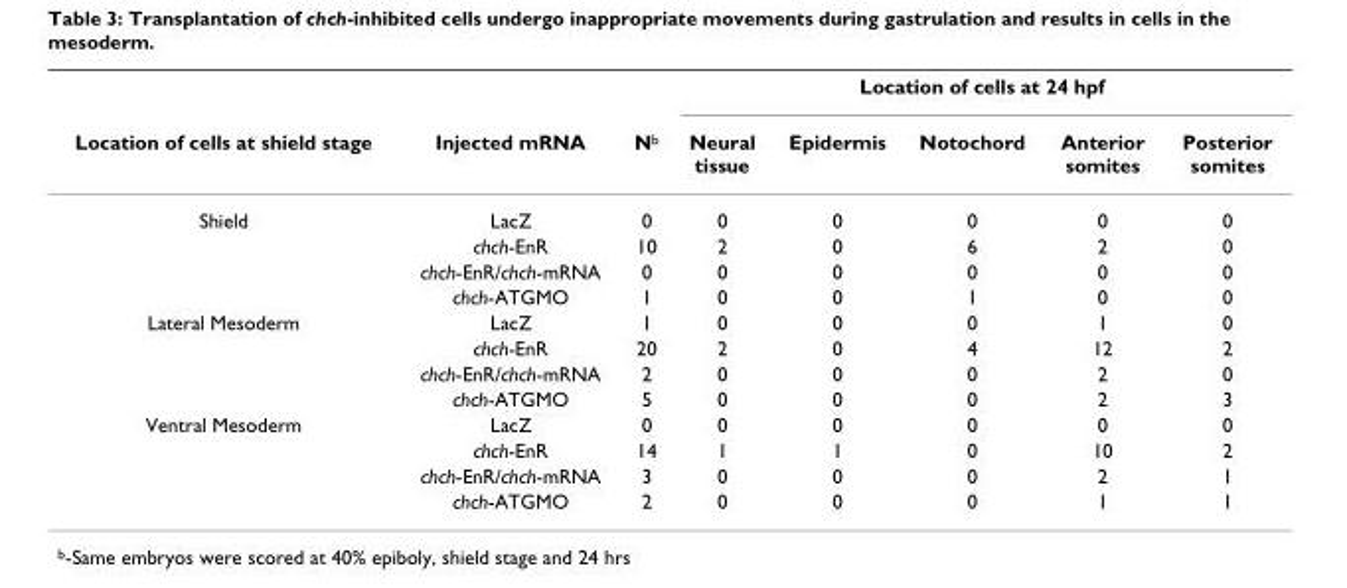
<table><thead><tr><td rowspan="2">Location of cells at shield stage</td><td rowspan="2">Injected mRNA</td><td rowspan="2">N<sup>b</sup></td><td colspan="5">Location of cells at 24 hpf</td></tr><tr><td>Neural tissue</td><td>Epidermis</td><td>Notochord</td><td>Anterior somites</td><td>Posterior somites</td></tr></thead><tbody><tr><td rowspan="4">Shield</td><td>LacZ</td><td>0</td><td>0</td><td>0</td><td>0</td><td>0</td><td>0</td></tr><tr><td>chch-EnR</td><td>10</td><td>2</td><td>0</td><td>6</td><td>2</td><td>0</td></tr><tr><td>chch-EnR/chch-mRNA</td><td>0</td><td>0</td><td>0</td><td>0</td><td>0</td><td>0</td></tr><tr><td>chch-ATGMO</td><td>1</td><td>0</td><td>0</td><td>1</td><td>0</td><td>0</td></tr><tr><td rowspan="4">Lateral Mesoderm</td><td>LacZ</td><td>1</td><td>0</td><td>0</td><td>0</td><td>1</td><td>0</td></tr><tr><td>chch-EnR</td><td>20</td><td>2</td><td>0</td><td>4</td><td>12</td><td>2</td></tr><tr><td>chch-EnR/chch-mRNA</td><td>2</td><td>0</td><td>0</td><td>0</td><td>2</td><td>0</td></tr><tr><td>chch-ATGMO</td><td>5</td><td>0</td><td>0</td><td>0</td><td>2</td><td>3</td></tr><tr><td rowspan="4">Ventral Mesoderm</td><td>LacZ</td><td>0</td><td>0</td><td>0</td><td>0</td><td>0</td><td>0</td></tr><tr><td>chch-EnR</td><td>14</td><td>1</td><td>1</td><td>0</td><td>10</td><td>2</td></tr><tr><td>chch-EnR/chch-mRNA</td><td>3</td><td>0</td><td>0</td><td>0</td><td>2</td><td>1</td></tr><tr><td>chch-ATGMO</td><td>2</td><td>0</td><td>0</td><td>0</td><td>1</td><td>1</td></tr></tbody></table>